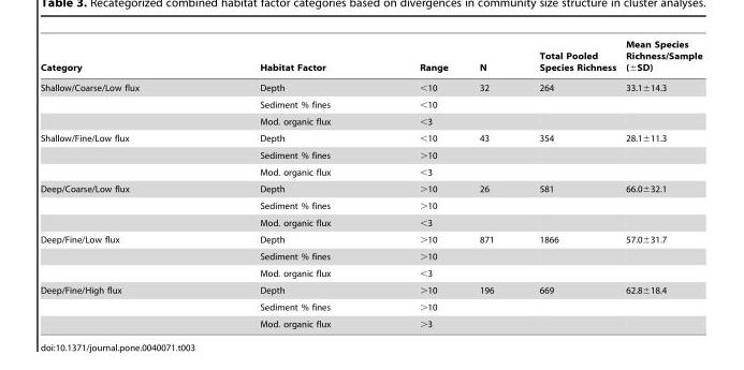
<table><thead><tr><td>Category</td><td>Habitat Factor</td><td>Range</td><td>N</td><td>Total Pooled Species Richness</td><td>Mean Species Richness/Sample (±SD)</td></tr></thead><tbody><tr><td rowspan="3">Shallow/Coarse/Low flux</td><td>Depth</td><td>&lt;10</td><td>32</td><td>264</td><td>33.1±14.3</td></tr><tr><td>Sediment % fines</td><td>&lt;10</td><td></td><td></td><td></td></tr><tr><td>Mod. organic flux</td><td>&lt;3</td><td></td><td></td><td></td></tr><tr><td rowspan="3">Shallow/Fine/Low flux</td><td>Depth</td><td>&lt;10</td><td>43</td><td>354</td><td>28.1±11.3</td></tr><tr><td>Sediment % fines</td><td>&gt;10</td><td></td><td></td><td></td></tr><tr><td>Mod. organic flux</td><td>&lt;3</td><td></td><td></td><td></td></tr><tr><td rowspan="3">Deep/Coarse/Low flux</td><td>Depth</td><td>&gt;10</td><td>26</td><td>581</td><td>66.0±32.1</td></tr><tr><td>Sediment % fines</td><td>&gt;10</td><td></td><td></td><td></td></tr><tr><td>Mod. organic flux</td><td>&lt;3</td><td></td><td></td><td></td></tr><tr><td rowspan="3">Deep/Fine/Low flux</td><td>Depth</td><td>&gt;10</td><td>871</td><td>1866</td><td>57.0±31.7</td></tr><tr><td>Sediment % fines</td><td>&gt;10</td><td></td><td></td><td></td></tr><tr><td>Mod. organic flux</td><td>&lt;3</td><td></td><td></td><td></td></tr><tr><td rowspan="3">Deep/Fine/High flux</td><td>Depth</td><td>&gt;10</td><td>196</td><td>669</td><td>62.8±18.4</td></tr><tr><td>Sediment % fines</td><td>&gt;10</td><td></td><td></td><td></td></tr><tr><td>Mod. organic flux</td><td>&gt;3</td><td></td><td></td><td></td></tr></tbody></table>